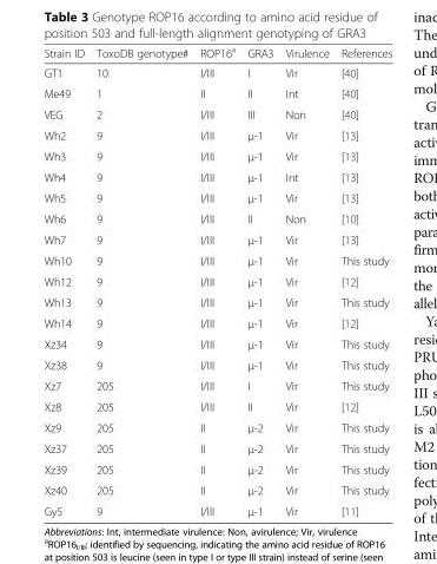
<table><thead><tr><td>Strain ID</td><td>ToxoDB genotype#</td><td>ROP16<sup>a</sup></td><td>GRA3</td><td>Virulence</td><td>References</td></tr></thead><tbody><tr><td>GT1</td><td>10</td><td>I/III</td><td>I</td><td>Vir</td><td>[40]</td></tr><tr><td>Me49</td><td>1</td><td>II</td><td>II</td><td>Int</td><td>[40]</td></tr><tr><td>VEG</td><td>2</td><td>I/III</td><td>III</td><td>Non</td><td>[40]</td></tr><tr><td>Wh2</td><td>9</td><td>I/III</td><td>μ-1</td><td>Vir</td><td>[13]</td></tr><tr><td>Wh3</td><td>9</td><td>I/III</td><td>μ-1</td><td>Vir</td><td>[13]</td></tr><tr><td>Wh4</td><td>9</td><td>I/III</td><td>μ-1</td><td>Int</td><td>[13]</td></tr><tr><td>Wh5</td><td>9</td><td>I/III</td><td>μ-1</td><td>Vir</td><td>[13]</td></tr><tr><td>Wh6</td><td>9</td><td>I/III</td><td>II</td><td>Non</td><td>[10]</td></tr><tr><td>Wh7</td><td>9</td><td>I/III</td><td>μ-1</td><td>Vir</td><td>[13]</td></tr><tr><td>Wh10</td><td>9</td><td>I/III</td><td>μ-1</td><td>Vir</td><td>This study</td></tr><tr><td>Wh12</td><td>9</td><td>I/III</td><td>μ-1</td><td>Vir</td><td>[12]</td></tr><tr><td>Wh13</td><td>9</td><td>I/III</td><td>μ-1</td><td>Vir</td><td>This study</td></tr><tr><td>Wh14</td><td>9</td><td>I/III</td><td>μ-1</td><td>Vir</td><td>[12]</td></tr><tr><td>Xz34</td><td>9</td><td>I/III</td><td>μ-1</td><td>Vir</td><td>This study</td></tr><tr><td>Xz38</td><td>9</td><td>I/III</td><td>μ-1</td><td>Vir</td><td>This study</td></tr><tr><td>Xz7</td><td>205</td><td>I/III</td><td>I</td><td>Vir</td><td>This study</td></tr><tr><td>Xz8</td><td>205</td><td>I/III</td><td>II</td><td>Vir</td><td>[12]</td></tr><tr><td>Xz9</td><td>205</td><td>II</td><td>μ-2</td><td>Vir</td><td>This study</td></tr><tr><td>Xz37</td><td>205</td><td>II</td><td>μ-2</td><td>Vir</td><td>This study</td></tr><tr><td>Xz39</td><td>205</td><td>II</td><td>μ-2</td><td>Vir</td><td>This study</td></tr><tr><td>Xz40</td><td>205</td><td>II</td><td>μ-2</td><td>Vir</td><td>This study</td></tr><tr><td>Gy5</td><td>9</td><td>I/III</td><td>μ-1</td><td>Vir</td><td>[11]</td></tr></tbody></table>